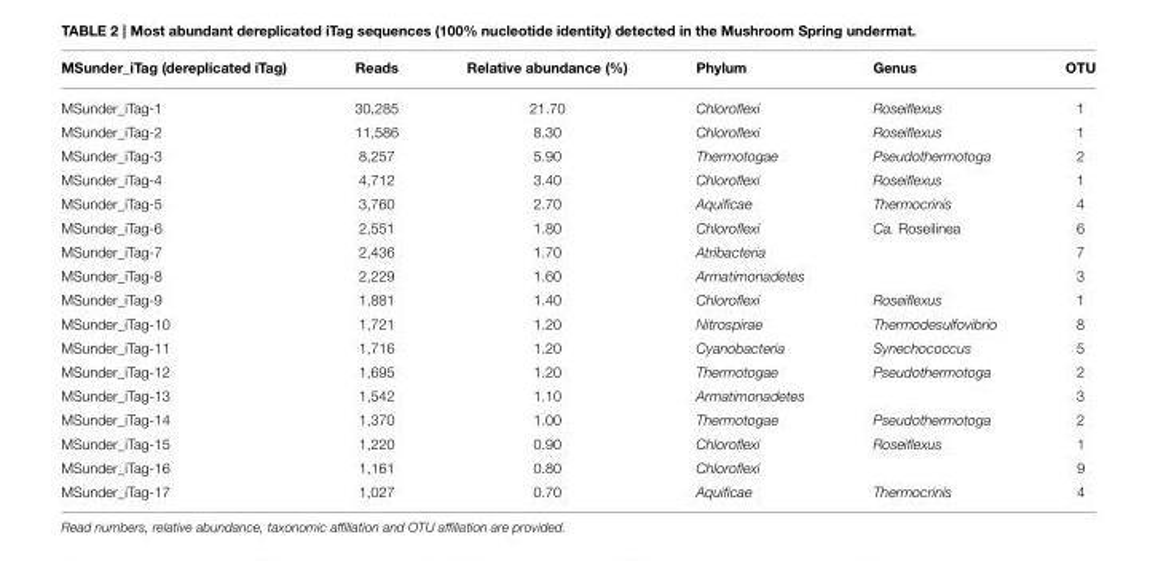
<table><thead><tr><td>MSunder_iTag (dereplicated iTag)</td><td>Reads</td><td>Relative abundance (%)</td><td>Phylum</td><td>Genus</td><td>OTU</td></tr></thead><tbody><tr><td>MSunder_iTag-1</td><td>30,285</td><td>21.70</td><td>Chloroflexi</td><td>Roseiflexus</td><td>1</td></tr><tr><td>MSunder_iTag-2</td><td>11,586</td><td>8.30</td><td>Chloroflexi</td><td>Roseiflexus</td><td>1</td></tr><tr><td>MSunder_iTag-3</td><td>8,257</td><td>5.90</td><td>Thermotogae</td><td>Pseudothermotoga</td><td>2</td></tr><tr><td>MSunder_iTag-4</td><td>4,712</td><td>3.40</td><td>Chloroflexi</td><td>Roseiflexus</td><td>1</td></tr><tr><td>MSunder_iTag-5</td><td>3,760</td><td>2.70</td><td>Aquificae</td><td>Thermocrinis</td><td>4</td></tr><tr><td>MSunder_iTag-6</td><td>2,551</td><td>1.80</td><td>Chloroflexi</td><td>Ca. Roseilinea</td><td>6</td></tr><tr><td>MSunder_iTag-7</td><td>2,436</td><td>1.70</td><td>Atribacteria</td><td></td><td>7</td></tr><tr><td>MSunder_iTag-8</td><td>2,229</td><td>1.60</td><td>Armatimonadetes</td><td></td><td>3</td></tr><tr><td>MSunder_iTag-9</td><td>1,881</td><td>1.40</td><td>Chloroflexi</td><td>Roseiflexus</td><td>1</td></tr><tr><td>MSunder_iTag-10</td><td>1,721</td><td>1.20</td><td>Nitrospirae</td><td>Thermodesulfovibrio</td><td>8</td></tr><tr><td>MSunder_iTag-11</td><td>1,716</td><td>1.20</td><td>Cyanobacteria</td><td>Synechococcus</td><td>5</td></tr><tr><td>MSunder_iTag-12</td><td>1,695</td><td>1.20</td><td>Thermotogae</td><td>Pseudothermotoga</td><td>2</td></tr><tr><td>MSunder_iTag-13</td><td>1,542</td><td>1.10</td><td>Armatimonadetes</td><td></td><td>3</td></tr><tr><td>MSunder_iTag-14</td><td>1,370</td><td>1.00</td><td>Thermotogae</td><td>Pseudothermotoga</td><td>2</td></tr><tr><td>MSunder_iTag-15</td><td>1,220</td><td>0.90</td><td>Chloroflexi</td><td>Roseiflexus</td><td>1</td></tr><tr><td>MSunder_iTag-16</td><td>1,161</td><td>0.80</td><td>Chloroflexi</td><td></td><td>9</td></tr><tr><td>MSunder_iTag-17</td><td>1,027</td><td>0.70</td><td>Aquificae</td><td>Thermocrinis</td><td>4</td></tr></tbody></table>